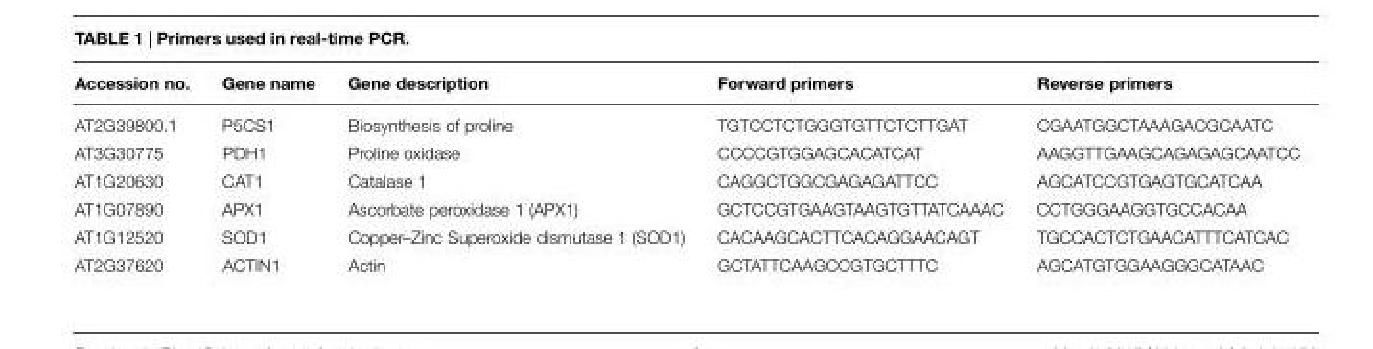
<table><thead><tr><td>Accession no.</td><td>Gene name</td><td>Gene description</td><td>Forward primers</td><td>Reverse primers</td></tr></thead><tbody><tr><td>AT2G39800.1</td><td>P5CS1</td><td>Biosynthesis of proline</td><td>TGTCCTCTGGGTGTTCTCTTGAT</td><td>CGAATGGCTAAAGACGCAATC</td></tr><tr><td>AT3G30775</td><td>PDH1</td><td>Proline oxidase</td><td>CCCCGTGGAGCACATCAT</td><td>AAGGTTGAAGCAGAGAGCAATCC</td></tr><tr><td>AT1G20630</td><td>CAT1</td><td>Catalase 1</td><td>CAGGCTGGCGAGAGATTCC</td><td>AGCATCCGTGAGTGCATCAA</td></tr><tr><td>AT1G07890</td><td>APX1</td><td>Ascorbate peroxidase 1 (APX1)</td><td>GCTCCGTGAAGTAAGTGTTATCAAAC</td><td>CCTGGGAAGGTGCCACAA</td></tr><tr><td>AT1G12520</td><td>SOD1</td><td>Copper–Zinc Superoxide dismutase 1 (SOD1)</td><td>CACAAGCACTTCACAGGAACAGT</td><td>TGCCACTCTGAACATTTCATCAC</td></tr><tr><td>AT2G37620</td><td>ACTIN1</td><td>Actin</td><td>GCTATTCAAGCCGTGCTTTC</td><td>AGCATGTGGAAGGGCATAAC</td></tr></tbody></table>